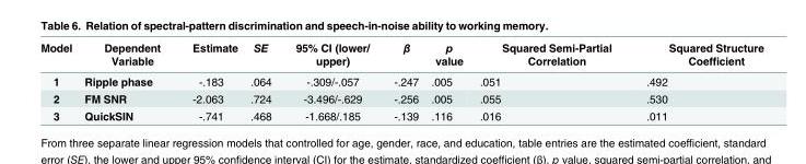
<table><thead><tr><td>Model</td><td>Dependent Variable</td><td>Estimate</td><td>SE</td><td>95% CI (lower/ upper)</td><td>β</td><td>p value</td><td>Squared Semi-Partial Correlation</td><td>Squared Structure Coefficient</td></tr></thead><tbody><tr><td>1</td><td>Ripple phase</td><td>-.183</td><td>.064</td><td>-.309/-.057</td><td>-.247</td><td>.005</td><td>.051</td><td>.492</td></tr><tr><td>2</td><td>FM SNR</td><td>-2.063</td><td>.724</td><td>-3.496/-.629</td><td>-.256</td><td>.005</td><td>.055</td><td>.530</td></tr><tr><td>3</td><td>QuickSIN</td><td>-.741</td><td>.468</td><td>-1.668/.185</td><td>-.139</td><td>.116</td><td>.016</td><td>.011</td></tr></tbody></table>